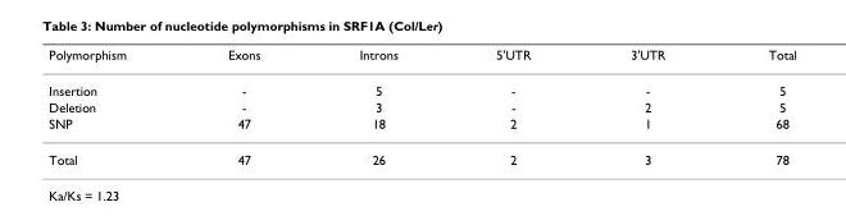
<table><thead><tr><td>Polymorphism</td><td>Exons</td><td>Introns</td><td>5&#x27;UTR</td><td>3&#x27;UTR</td><td>Total</td></tr></thead><tbody><tr><td>Insertion</td><td>-</td><td>5</td><td>-</td><td>-</td><td>5</td></tr><tr><td>Deletion</td><td>-</td><td>3</td><td>-</td><td>2</td><td>5</td></tr><tr><td>SNP</td><td>47</td><td>18</td><td>2</td><td>1</td><td>68</td></tr><tr><td>Total</td><td>47</td><td>26</td><td>2</td><td>3</td><td>78</td></tr></tbody></table>